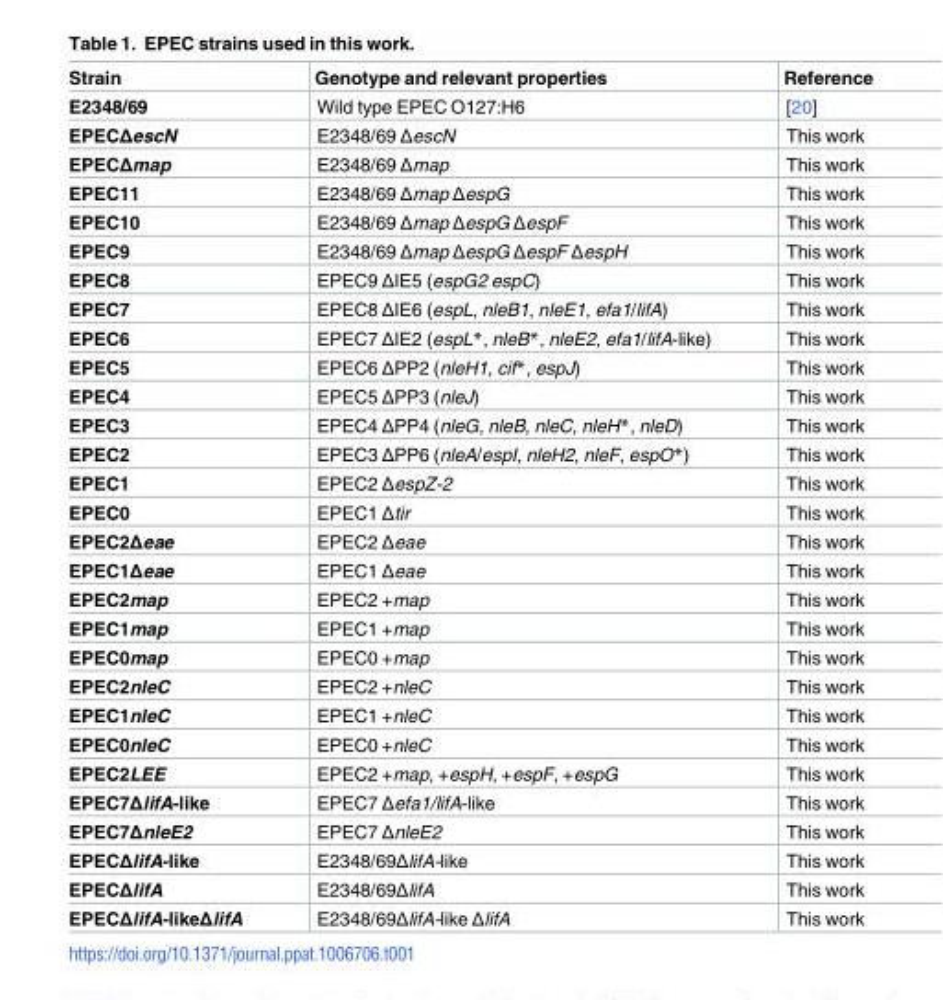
<table><thead><tr><td>Strain</td><td>Genotype and relevant properties</td><td>Reference</td></tr></thead><tbody><tr><td>E2348/69</td><td>Wild type EPEC O127:H6</td><td>[20]</td></tr><tr><td>EPECΔescN</td><td>E2348/69 ΔescN</td><td>This work</td></tr><tr><td>EPECΔmap</td><td>E2348/69 Δmap</td><td>This work</td></tr><tr><td>EPEC11</td><td>E2348/69 Δmap ΔespG</td><td>This work</td></tr><tr><td>EPEC10</td><td>E2348/69 Δmap ΔespG ΔespF</td><td>This work</td></tr><tr><td>EPEC9</td><td>E2348/69 Δmap ΔespG ΔespF ΔespH</td><td>This work</td></tr><tr><td>EPEC8</td><td>EPEC9 ΔIE5 (espG2 espC)</td><td>This work</td></tr><tr><td>EPEC7</td><td>EPEC8 ΔIE6 (espL, nleB1, nleE1, efa1/lifA)</td><td>This work</td></tr><tr><td>EPEC6</td><td>EPEC7 ΔIE2 (espL*, nleB*, nleE2, efa1/lifA-like)</td><td>This work</td></tr><tr><td>EPEC5</td><td>EPEC6 ΔPP2 (nleH1, cif*, espJ)</td><td>This work</td></tr><tr><td>EPEC4</td><td>EPEC5 ΔPP3 (nleJ)</td><td>This work</td></tr><tr><td>EPEC3</td><td>EPEC4 ΔPP4 (nleG, nleB, nleC, nleH*, nleD)</td><td>This work</td></tr><tr><td>EPEC2</td><td>EPEC3 ΔPP6 (nleA/espI, nleH2, nleF, espO*)</td><td>This work</td></tr><tr><td>EPEC1</td><td>EPEC2 ΔespZ-2</td><td>This work</td></tr><tr><td>EPEC0</td><td>EPEC1 Δtir</td><td>This work</td></tr><tr><td>EPEC2Δeae</td><td>EPEC2 Δeae</td><td>This work</td></tr><tr><td>EPEC1Δeae</td><td>EPEC1 Δeae</td><td>This work</td></tr><tr><td>EPEC2map</td><td>EPEC2 +map</td><td>This work</td></tr><tr><td>EPEC1map</td><td>EPEC1 +map</td><td>This work</td></tr><tr><td>EPEC0map</td><td>EPEC0 +map</td><td>This work</td></tr><tr><td>EPEC2nleC</td><td>EPEC2 +nleC</td><td>This work</td></tr><tr><td>EPEC1nleC</td><td>EPEC1 +nleC</td><td>This work</td></tr><tr><td>EPEC0nleC</td><td>EPEC0 +nleC</td><td>This work</td></tr><tr><td>EPEC2LEE</td><td>EPEC2 +map, +espH, +espF, +espG</td><td>This work</td></tr><tr><td>EPEC7ΔlifA-like</td><td>EPEC7 Δefa1/lifA-like</td><td>This work</td></tr><tr><td>EPEC7ΔnleE2</td><td>EPEC7 ΔnleE2</td><td>This work</td></tr><tr><td>EPECΔlifA-like</td><td>E2348/69ΔlifA-like</td><td>This work</td></tr><tr><td>EPECΔlifA</td><td>E2348/69ΔlifA</td><td>This work</td></tr><tr><td>EPECΔlifA-likeΔlifA</td><td>E2348/69ΔlifA-like ΔlifA</td><td>This work</td></tr></tbody></table>